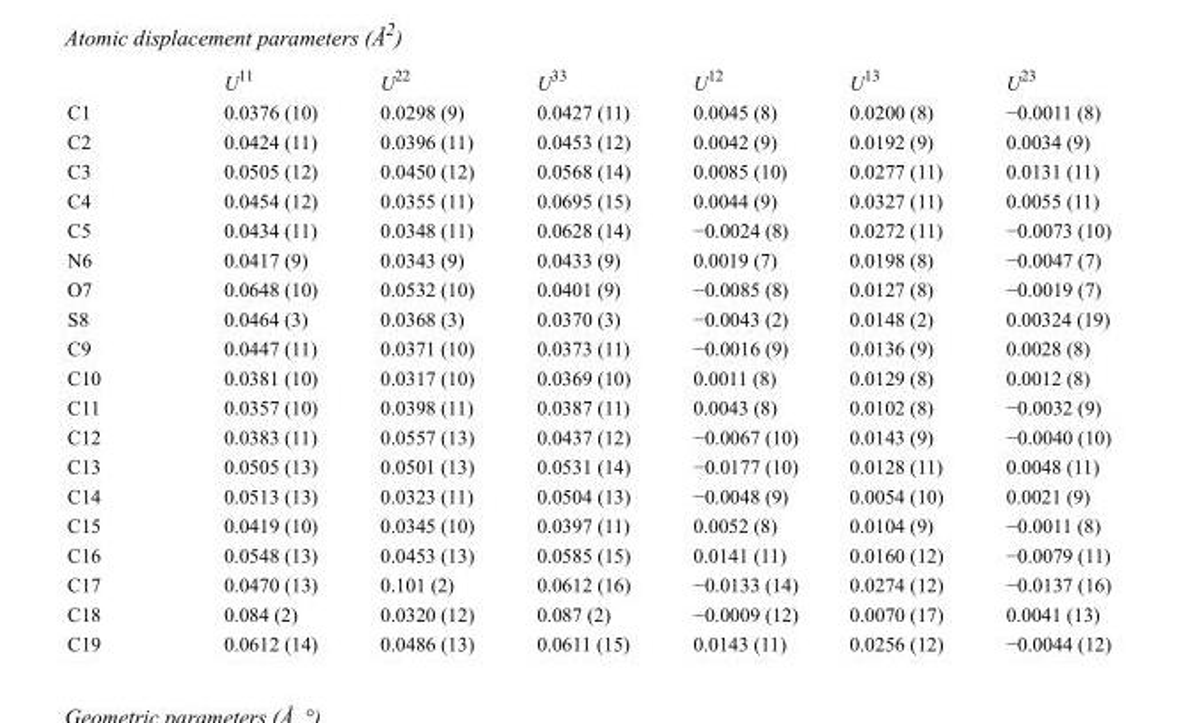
<table><thead><tr><td></td><td>U<sup>11</sup></td><td>U<sup>22</sup></td><td>U<sup>33</sup></td><td>U<sup>12</sup></td><td>U<sup>13</sup></td><td>U<sup>23</sup></td></tr></thead><tbody><tr><td>C1</td><td>0.0376 (10)</td><td>0.0298 (9)</td><td>0.0427 (11)</td><td>0.0045 (8)</td><td>0.0200 (8)</td><td>−0.0011 (8)</td></tr><tr><td>C2</td><td>0.0424 (11)</td><td>0.0396 (11)</td><td>0.0453 (12)</td><td>0.0042 (9)</td><td>0.0192 (9)</td><td>0.0034 (9)</td></tr><tr><td>C3</td><td>0.0505 (12)</td><td>0.0450 (12)</td><td>0.0568 (14)</td><td>0.0085 (10)</td><td>0.0277 (11)</td><td>0.0131 (11)</td></tr><tr><td>C4</td><td>0.0454 (12)</td><td>0.0355 (11)</td><td>0.0695 (15)</td><td>0.0044 (9)</td><td>0.0327 (11)</td><td>0.0055 (11)</td></tr><tr><td>C5</td><td>0.0434 (11)</td><td>0.0348 (11)</td><td>0.0628 (14)</td><td>−0.0024 (8)</td><td>0.0272 (11)</td><td>−0.0073 (10)</td></tr><tr><td>N6</td><td>0.0417 (9)</td><td>0.0343 (9)</td><td>0.0433 (9)</td><td>0.0019 (7)</td><td>0.0198 (8)</td><td>−0.0047 (7)</td></tr><tr><td>O7</td><td>0.0648 (10)</td><td>0.0532 (10)</td><td>0.0401 (9)</td><td>−0.0085 (8)</td><td>0.0127 (8)</td><td>−0.0019 (7)</td></tr><tr><td>S8</td><td>0.0464 (3)</td><td>0.0368 (3)</td><td>0.0370 (3)</td><td>−0.0043 (2)</td><td>0.0148 (2)</td><td>0.00324 (19)</td></tr><tr><td>C9</td><td>0.0447 (11)</td><td>0.0371 (10)</td><td>0.0373 (11)</td><td>−0.0016 (9)</td><td>0.0136 (9)</td><td>0.0028 (8)</td></tr><tr><td>C10</td><td>0.0381 (10)</td><td>0.0317 (10)</td><td>0.0369 (10)</td><td>0.0011 (8)</td><td>0.0129 (8)</td><td>0.0012 (8)</td></tr><tr><td>C11</td><td>0.0357 (10)</td><td>0.0398 (11)</td><td>0.0387 (11)</td><td>0.0043 (8)</td><td>0.0102 (8)</td><td>−0.0032 (9)</td></tr><tr><td>C12</td><td>0.0383 (11)</td><td>0.0557 (13)</td><td>0.0437 (12)</td><td>−0.0067 (10)</td><td>0.0143 (9)</td><td>−0.0040 (10)</td></tr><tr><td>C13</td><td>0.0505 (13)</td><td>0.0501 (13)</td><td>0.0531 (14)</td><td>−0.0177 (10)</td><td>0.0128 (11)</td><td>0.0048 (11)</td></tr><tr><td>C14</td><td>0.0513 (13)</td><td>0.0323 (11)</td><td>0.0504 (13)</td><td>−0.0048 (9)</td><td>0.0054 (10)</td><td>0.0021 (9)</td></tr><tr><td>C15</td><td>0.0419 (10)</td><td>0.0345 (10)</td><td>0.0397 (11)</td><td>0.0052 (8)</td><td>0.0104 (9)</td><td>−0.0011 (8)</td></tr><tr><td>C16</td><td>0.0548 (13)</td><td>0.0453 (13)</td><td>0.0585 (15)</td><td>0.0141 (11)</td><td>0.0160 (12)</td><td>−0.0079 (11)</td></tr><tr><td>C17</td><td>0.0470 (13)</td><td>0.101 (2)</td><td>0.0612 (16)</td><td>−0.0133 (14)</td><td>0.0274 (12)</td><td>−0.0137 (16)</td></tr><tr><td>C18</td><td>0.084 (2)</td><td>0.0320 (12)</td><td>0.087 (2)</td><td>−0.0009 (12)</td><td>0.0070 (17)</td><td>0.0041 (13)</td></tr><tr><td>C19</td><td>0.0612 (14)</td><td>0.0486 (13)</td><td>0.0611 (15)</td><td>0.0143 (11)</td><td>0.0256 (12)</td><td>−0.0044 (12)</td></tr></tbody></table>